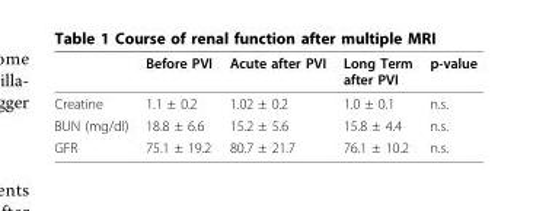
<table><thead><tr><td></td><td>Before PVI</td><td>Acute after PVI</td><td>Long Term after PVI</td><td>p-value</td></tr></thead><tbody><tr><td>Creatine</td><td>1.1 ± 0.2</td><td>1.02 ± 0.2</td><td>1.0 ± 0.1</td><td>n.s.</td></tr><tr><td>BUN (mg/dl)</td><td>18.8 ± 6.6</td><td>15.2 ± 5.6</td><td>15.8 ± 4.4</td><td>n.s.</td></tr><tr><td>GFR</td><td>75.1 ± 19.2</td><td>80.7 ± 21.7</td><td>76.1 ± 10.2</td><td>n.s.</td></tr></tbody></table>